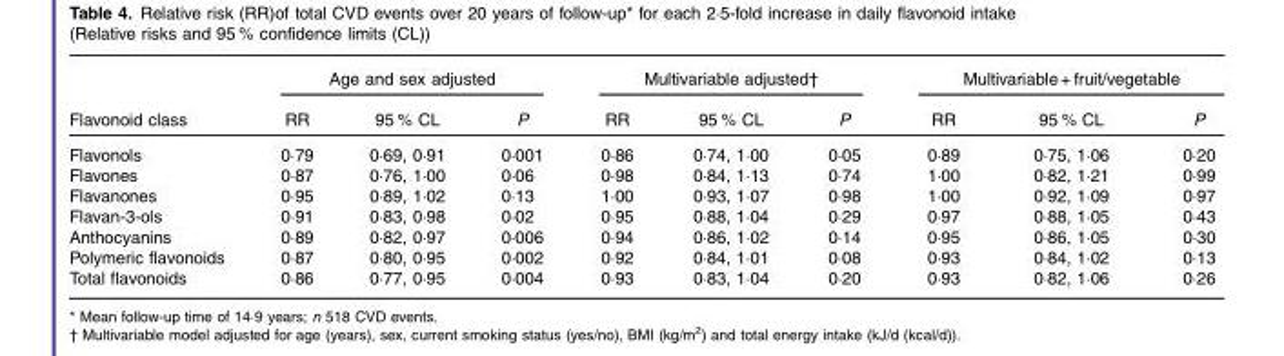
<table><thead><tr><td rowspan="2">Flavonoid class</td><td colspan="3">Age and sex adjusted</td><td colspan="3">Multivariable adjusted†</td><td colspan="3">Multivariable + fruit/vegetable</td></tr><tr><td>RR</td><td>95 % CL</td><td>P</td><td>RR</td><td>95 % CL</td><td>P</td><td>RR</td><td>95 % CL</td><td>P</td></tr></thead><tbody><tr><td>Flavonols</td><td>0·79</td><td>0·69, 0·91</td><td>0·001</td><td>0·86</td><td>0·74, 1·00</td><td>0·05</td><td>0·89</td><td>0·75, 1·06</td><td>0·20</td></tr><tr><td>Flavones</td><td>0·87</td><td>0·76, 1·00</td><td>0·06</td><td>0·98</td><td>0·84, 1·13</td><td>0·74</td><td>1·00</td><td>0·82, 1·21</td><td>0·99</td></tr><tr><td>Flavanones</td><td>0·95</td><td>0·89, 1·02</td><td>0·13</td><td>1·00</td><td>0·93, 1·07</td><td>0·98</td><td>1·00</td><td>0·92, 1·09</td><td>0·97</td></tr><tr><td>Flavan-3-ols</td><td>0·91</td><td>0·83, 0·98</td><td>0·02</td><td>0·95</td><td>0·88, 1·04</td><td>0·29</td><td>0·97</td><td>0·88, 1·05</td><td>0·43</td></tr><tr><td>Anthocyanins</td><td>0·89</td><td>0·82, 0·97</td><td>0·006</td><td>0·94</td><td>0·86, 1·02</td><td>0·14</td><td>0·95</td><td>0·86, 1·05</td><td>0·30</td></tr><tr><td>Polymeric flavonoids</td><td>0·87</td><td>0·80, 0·95</td><td>0·002</td><td>0·92</td><td>0·84, 1·01</td><td>0·08</td><td>0·93</td><td>0·84, 1·02</td><td>0·13</td></tr><tr><td>Total flavonoids</td><td>0·86</td><td>0·77, 0·95</td><td>0·004</td><td>0·93</td><td>0·83, 1·04</td><td>0·20</td><td>0·93</td><td>0·82, 1·06</td><td>0·26</td></tr></tbody></table>